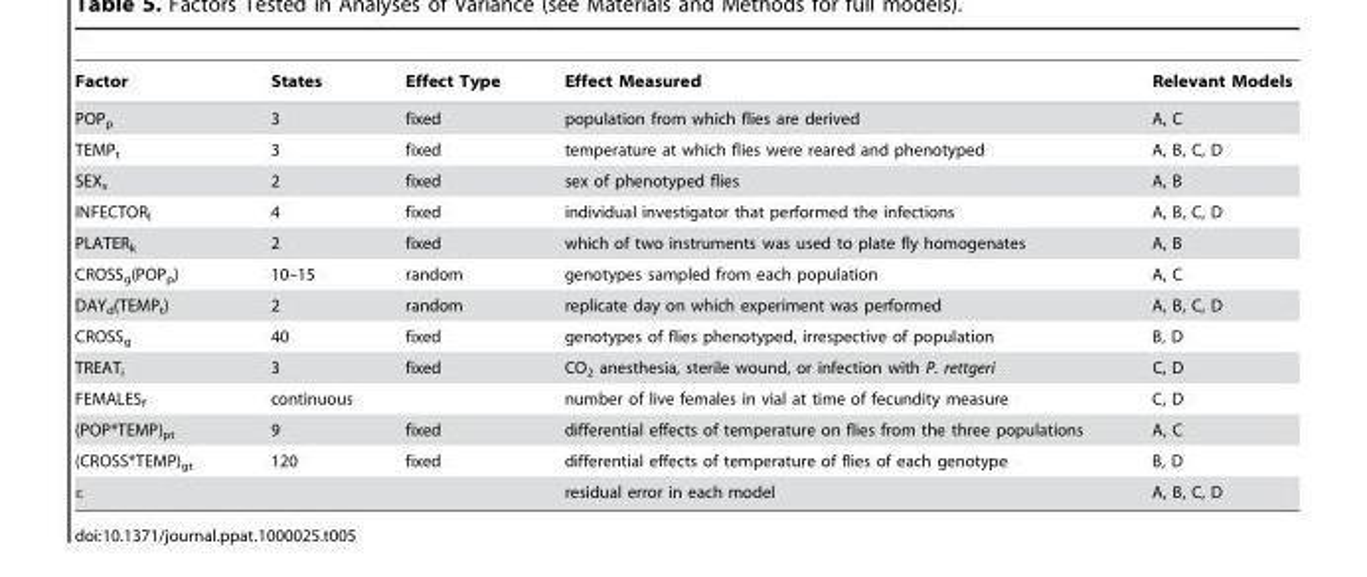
<table><thead><tr><td>Factor</td><td>States</td><td>Effect Type</td><td>Effect Measured</td><td>Relevant Models</td></tr></thead><tbody><tr><td>POP<sub>p</sub></td><td>3</td><td>fixed</td><td>population from which flies are derived</td><td>A, C</td></tr><tr><td>TEMP<sub>t</sub></td><td>3</td><td>fixed</td><td>temperature at which flies were reared and phenotyped</td><td>A, B, C, D</td></tr><tr><td>SEX<sub>s</sub></td><td>2</td><td>fixed</td><td>sex of phenotyped flies</td><td>A, B</td></tr><tr><td>INFECTOR<sub>l</sub></td><td>4</td><td>fixed</td><td>individual investigator that performed the infections</td><td>A, B, C, D</td></tr><tr><td>PLATER<sub>k</sub></td><td>2</td><td>fixed</td><td>which of two instruments was used to plate fly homogenates</td><td>A, B</td></tr><tr><td>CROSS<sub>g</sub>(POP<sub>p</sub>)</td><td>10–15</td><td>random</td><td>genotypes sampled from each population</td><td>A, C</td></tr><tr><td>DAY<sub>d</sub>(TEMP<sub>t</sub>)</td><td>2</td><td>random</td><td>replicate day on which experiment was performed</td><td>A, B, C, D</td></tr><tr><td>CROSS<sub>g</sub></td><td>40</td><td>fixed</td><td>genotypes of flies phenotyped, irrespective of population</td><td>B, D</td></tr><tr><td>TREAT<sub>i</sub></td><td>3</td><td>fixed</td><td>CO<sub>2</sub> anesthesia, sterile wound, or infection with P. rettgeri</td><td>C, D</td></tr><tr><td>FEMALES<sub>f</sub></td><td colspan="2">continuous</td><td>number of live females in vial at time of fecundity measure</td><td>C, D</td></tr><tr><td>(POP*TEMP)<sub>pt</sub></td><td>9</td><td>fixed</td><td>differential effects of temperature on flies from the three populations</td><td>A, C</td></tr><tr><td>(CROSS*TEMP)<sub>gt</sub></td><td>120</td><td>fixed</td><td>differential effects of temperature of flies of each genotype</td><td>B, D</td></tr><tr><td>ε</td><td></td><td></td><td>residual error in each model</td><td>A, B, C, D</td></tr></tbody></table>